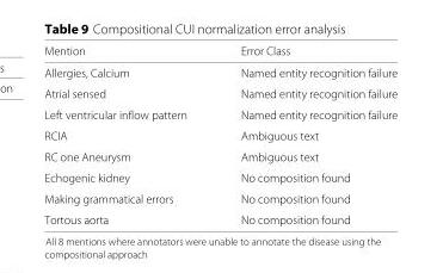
<table><thead><tr><td>Mention</td><td>Error Class</td></tr></thead><tbody><tr><td>Allergies, Calcium</td><td>Named entity recognition failure</td></tr><tr><td>Atrial sensed</td><td>Named entity recognition failure</td></tr><tr><td>Left ventricular inflow pattern</td><td>Named entity recognition failure</td></tr><tr><td>RCIA</td><td>Ambiguous text</td></tr><tr><td>RC one Aneurysm</td><td>Ambiguous text</td></tr><tr><td>Echogenic kidney</td><td>No composition found</td></tr><tr><td>Making grammatical errors</td><td>No composition found</td></tr><tr><td>Tortous aorta</td><td>No composition found</td></tr></tbody></table>